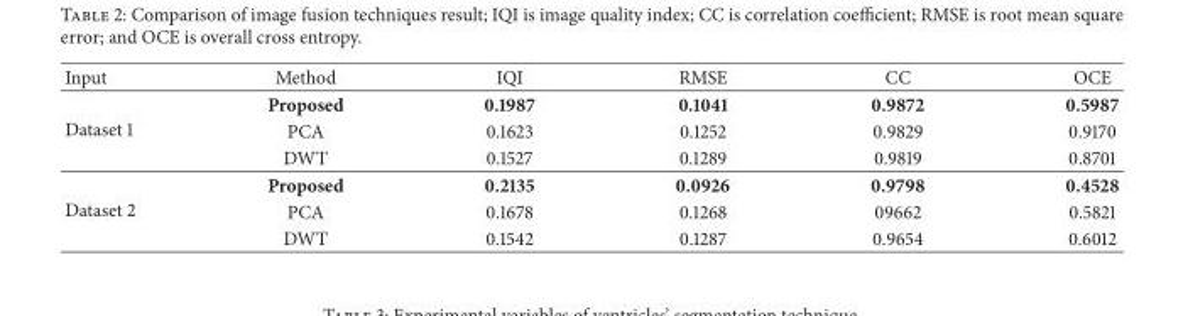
<table><thead><tr><td>Input</td><td>Method</td><td>IQI</td><td>RMSE</td><td>CC</td><td>OCE</td></tr></thead><tbody><tr><td rowspan="3">Dataset 1</td><td>Proposed</td><td>0.1987</td><td>0.1041</td><td>0.9872</td><td>0.5987</td></tr><tr><td>PCA</td><td>0.1623</td><td>0.1252</td><td>0.9829</td><td>0.9170</td></tr><tr><td>DWT</td><td>0.1527</td><td>0.1289</td><td>0.9819</td><td>0.8701</td></tr><tr><td rowspan="3">Dataset 2</td><td>Proposed</td><td>0.2135</td><td>0.0926</td><td>0.9798</td><td>0.4528</td></tr><tr><td>PCA</td><td>0.1678</td><td>0.1268</td><td>09662</td><td>0.5821</td></tr><tr><td>DWT</td><td>0.1542</td><td>0.1287</td><td>0.9654</td><td>0.6012</td></tr></tbody></table>